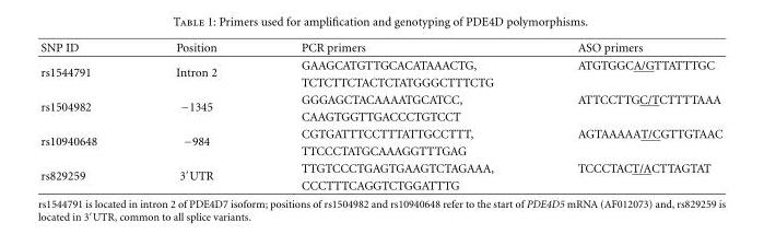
<table><thead><tr><td>SNP ID</td><td>Position</td><td>PCR primers</td><td>ASO primers</td></tr></thead><tbody><tr><td rowspan="2">rs1544791</td><td rowspan="2">Intron 2</td><td>GAAGCATGTTGCACATAAACTG,</td><td>ATGTGGCA/GTTATTTGC</td></tr><tr><td>TCTCTTCTACTCTATGGGCTTTCTG</td><td></td></tr><tr><td rowspan="2">rs1504982</td><td rowspan="2">−1345</td><td>GGGAGCTACAAAATGCATCC,</td><td>ATTCCTTGC/TCTTTTAAA</td></tr><tr><td>CAAGTGGTTGACCCTGTCCT</td><td></td></tr><tr><td rowspan="2">rs10940648</td><td rowspan="2">−984</td><td>CGTGATTTCCTTTATTGCCTTT,</td><td>AGTAAAAAT/CGTTGTAAC</td></tr><tr><td>TTCCCTATGCAAAGGTTTGAG</td><td></td></tr><tr><td rowspan="2">rs829259</td><td rowspan="2">3′UTR</td><td>TTGTCCCTGAGTGAAGTCTAGAAA,</td><td>TCCCTACT/ACTTAGTAT</td></tr><tr><td>CCCTTTCAGGTCTGGATTTG</td><td></td></tr></tbody></table>